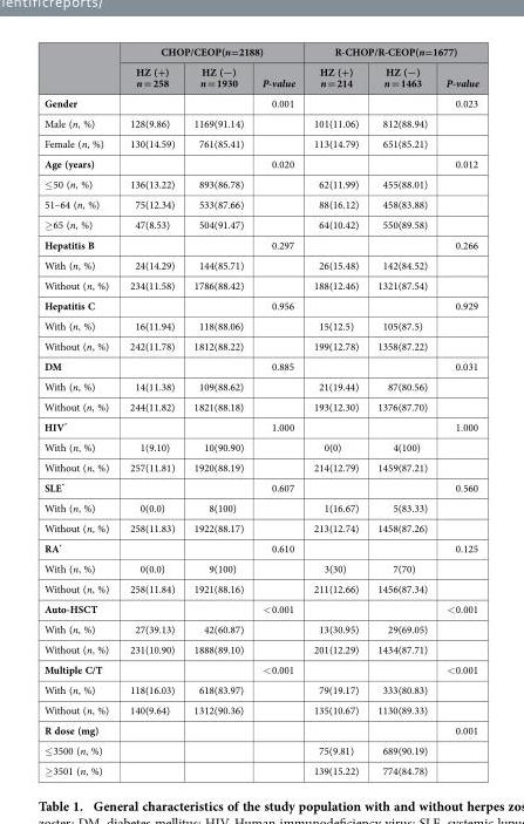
<table><thead><tr><td rowspan="2"></td><td colspan="3">CHOP/CEOP(n=2188)</td><td colspan="3">R-CHOP/R-CEOP(n=1677)</td></tr><tr><td>HZ (+) n = 258</td><td>HZ (−) n = 1930</td><td>P-value</td><td>HZ (+) n = 214</td><td>HZ (−) n = 1463</td><td>P-value</td></tr></thead><tbody><tr><td>Gender</td><td></td><td></td><td>0.001</td><td></td><td></td><td>0.023</td></tr><tr><td>Male (n, %)</td><td>128(9.86)</td><td>1169(91.14)</td><td></td><td>101(11.06)</td><td>812(88.94)</td><td></td></tr><tr><td>Female (n, %)</td><td>130(14.59)</td><td>761(85.41)</td><td></td><td>113(14.79)</td><td>651(85.21)</td><td></td></tr><tr><td>Age (years)</td><td></td><td></td><td>0.020</td><td></td><td></td><td>0.012</td></tr><tr><td>≤ 50 (n, %)</td><td>136(13.22)</td><td>893(86.78)</td><td></td><td>62(11.99)</td><td>455(88.01)</td><td></td></tr><tr><td>51–64 (n, %)</td><td>75(12.34)</td><td>533(87.66)</td><td></td><td>88(16.12)</td><td>458(83.88)</td><td></td></tr><tr><td>≥ 65 (n, %)</td><td>47(8.53)</td><td>504(91.47)</td><td></td><td>64(10.42)</td><td>550(89.58)</td><td></td></tr><tr><td>Hepatitis B</td><td></td><td></td><td>0.297</td><td></td><td></td><td>0.266</td></tr><tr><td>With (n, %)</td><td>24(14.29)</td><td>144(85.71)</td><td></td><td>26(15.48)</td><td>142(84.52)</td><td></td></tr><tr><td>Without (n, %)</td><td>234(11.58)</td><td>1786(88.42)</td><td></td><td>188(12.46)</td><td>1321(87.54)</td><td></td></tr><tr><td>Hepatitis C</td><td></td><td></td><td>0.956</td><td></td><td></td><td>0.929</td></tr><tr><td>With (n, %)</td><td>16(11.94)</td><td>118(88.06)</td><td></td><td>15(12.5)</td><td>105(87.5)</td><td></td></tr><tr><td>Without (n, %)</td><td>242(11.78)</td><td>1812(88.22)</td><td></td><td>199(12.78)</td><td>1358(87.22)</td><td></td></tr><tr><td>DM</td><td></td><td></td><td>0.885</td><td></td><td></td><td>0.031</td></tr><tr><td>With (n, %)</td><td>14(11.38)</td><td>109(88.62)</td><td></td><td>21(19.44)</td><td>87(80.56)</td><td></td></tr><tr><td>Without (n, %)</td><td>244(11.82)</td><td>1821(88.18)</td><td></td><td>193(12.30)</td><td>1376(87.70)</td><td></td></tr><tr><td>HIV*</td><td></td><td></td><td>1.000</td><td></td><td></td><td>1.000</td></tr><tr><td>With (n, %)</td><td>1(9.10)</td><td>10(90.90)</td><td></td><td>0(0)</td><td>4(100)</td><td></td></tr><tr><td>Without (n, %)</td><td>257(11.81)</td><td>1920(88.19)</td><td></td><td>214(12.79)</td><td>1459(87.21)</td><td></td></tr><tr><td>SLE*</td><td></td><td></td><td>0.607</td><td></td><td></td><td>0.560</td></tr><tr><td>With (n, %)</td><td>0(0.0)</td><td>8(100)</td><td></td><td>1(16.67)</td><td>5(83.33)</td><td></td></tr><tr><td>Without (n, %)</td><td>258(11.83)</td><td>1922(88.17)</td><td></td><td>213(12.74)</td><td>1458(87.26)</td><td></td></tr><tr><td>RA*</td><td></td><td></td><td>0.610</td><td></td><td></td><td>0.125</td></tr><tr><td>With (n, %)</td><td>0(0.0)</td><td>9(100)</td><td></td><td>3(30)</td><td>7(70)</td><td></td></tr><tr><td>Without (n, %)</td><td>258(11.84)</td><td>1921(88.16)</td><td></td><td>211(12.66)</td><td>1456(87.34)</td><td></td></tr><tr><td>Auto-HSCT</td><td></td><td></td><td>&lt; 0.001</td><td></td><td></td><td>&lt; 0.001</td></tr><tr><td>With (n, %)</td><td>27(39.13)</td><td>42(60.87)</td><td></td><td>13(30.95)</td><td>29(69.05)</td><td></td></tr><tr><td>Without (n, %)</td><td>231(10.90)</td><td>1888(89.10)</td><td></td><td>201(12.29)</td><td>1434(87.71)</td><td></td></tr><tr><td>Multiple C/T</td><td></td><td></td><td>&lt; 0.001</td><td></td><td></td><td>&lt; 0.001</td></tr><tr><td>With (n, %)</td><td>118(16.03)</td><td>618(83.97)</td><td></td><td>79(19.17)</td><td>333(80.83)</td><td></td></tr><tr><td>Without (n, %)</td><td>140(9.64)</td><td>1312(90.36)</td><td></td><td>135(10.67)</td><td>1130(89.33)</td><td></td></tr><tr><td>R dose (mg)</td><td></td><td></td><td></td><td></td><td></td><td>0.001</td></tr><tr><td>≤ 3500 (n, %)</td><td></td><td></td><td></td><td>75(9.81)</td><td>689(90.19)</td><td></td></tr><tr><td>≥ 3501 (n, %)</td><td></td><td></td><td></td><td>139(15.22)</td><td>774(84.78)</td><td></td></tr></tbody></table>